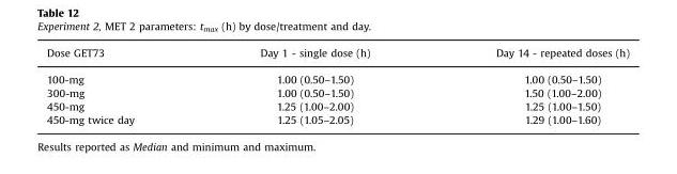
<table><thead><tr><td>Dose GET73</td><td>Day 1 - single dose (h)</td><td>Day 14 - repeated doses (h)</td></tr></thead><tbody><tr><td>100-mg</td><td>1.00 (0.50–1.50)</td><td>1.00 (0.50–1.50)</td></tr><tr><td>300-mg</td><td>1.00 (0.50–1.50)</td><td>1.50 (1.00–2.00)</td></tr><tr><td>450-mg</td><td>1.25 (1.00–2.00)</td><td>1.25 (1.00–1.50)</td></tr><tr><td>450-mg twice day</td><td>1.25 (1.05–2.05)</td><td>1.29 (1.00–1.60)</td></tr></tbody></table>